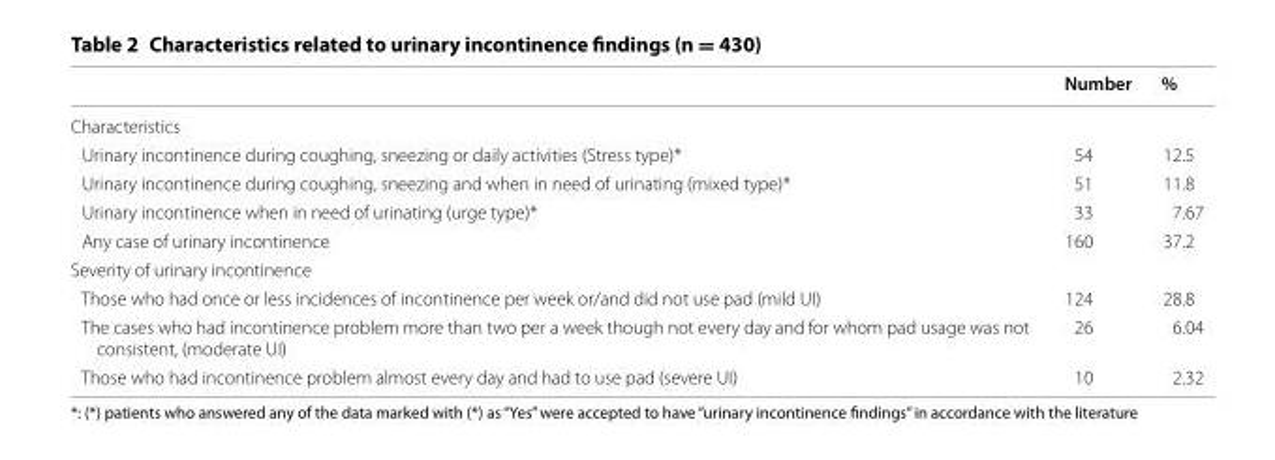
<table><thead><tr><td></td><td>Number</td><td>%</td></tr></thead><tbody><tr><td colspan="3">Characteristics</td></tr><tr><td>Urinary incontinence during coughing, sneezing or daily activities (Stress type)*</td><td>54</td><td>12.5</td></tr><tr><td>Urinary incontinence during coughing, sneezing and when in need of urinating (mixed type)*</td><td>51</td><td>11.8</td></tr><tr><td>Urinary incontinence when in need of urinating (urge type)*</td><td>33</td><td>7.67</td></tr><tr><td>Any case of urinary incontinence</td><td>160</td><td>37.2</td></tr><tr><td colspan="3">Severity of urinary incontinence</td></tr><tr><td>Those who had once or less incidences of incontinence per week or/and did not use pad (mild UI)</td><td>124</td><td>28.8</td></tr><tr><td>The cases who had incontinence problem more than two per a week though not every day and for whom pad usage was not consistent, (moderate UI)</td><td>26</td><td>6.04</td></tr><tr><td>Those who had incontinence problem almost every day and had to use pad (severe UI)</td><td>10</td><td>2.32</td></tr></tbody></table>